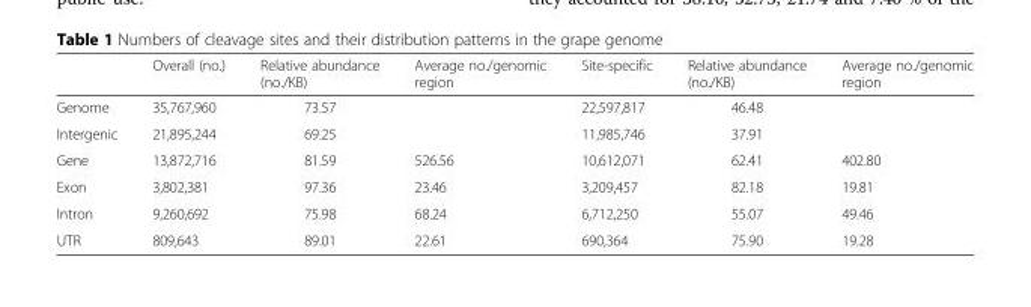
<table><thead><tr><td></td><td>Overall (no.)</td><td>Relative abundance (no./KB)</td><td>Average no./genomic region</td><td>Site-specific</td><td>Relative abundance (no./KB)</td><td>Average no./genomic region</td></tr></thead><tbody><tr><td>Genome</td><td>35,767,960</td><td>73.57</td><td></td><td>22,597,817</td><td>46.48</td><td></td></tr><tr><td>Intergenic</td><td>21,895,244</td><td>69.25</td><td></td><td>11,985,746</td><td>37.91</td><td></td></tr><tr><td>Gene</td><td>13,872,716</td><td>81.59</td><td>526.56</td><td>10,612,071</td><td>62.41</td><td>402.80</td></tr><tr><td>Exon</td><td>3,802,381</td><td>97.36</td><td>23.46</td><td>3,209,457</td><td>82.18</td><td>19.81</td></tr><tr><td>Intron</td><td>9,260,692</td><td>75.98</td><td>68.24</td><td>6,712,250</td><td>55.07</td><td>49.46</td></tr><tr><td>UTR</td><td>809,643</td><td>89.01</td><td>22.61</td><td>690,364</td><td>75.90</td><td>19.28</td></tr></tbody></table>